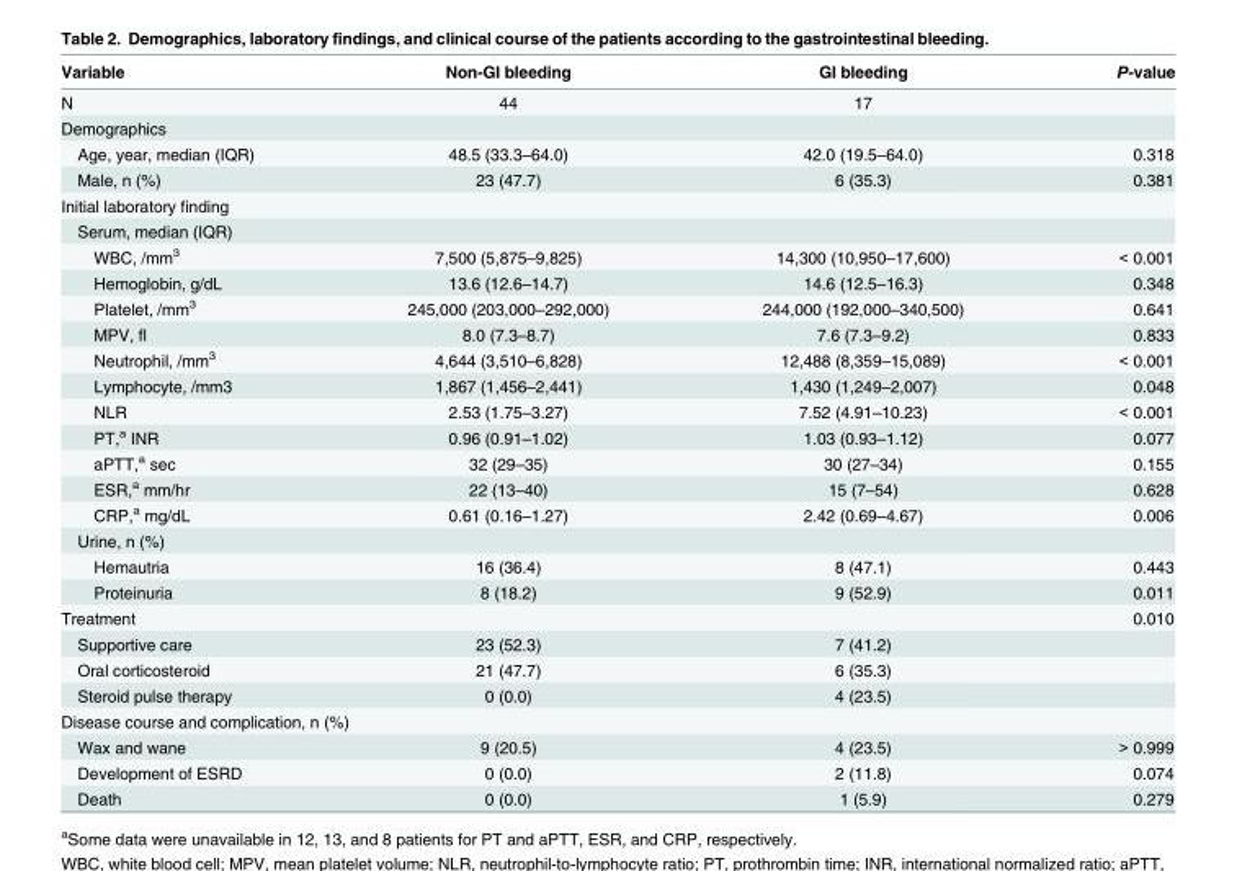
<table><thead><tr><td>Variable</td><td>Non-GI bleeding</td><td>GI bleeding</td><td>P-value</td></tr></thead><tbody><tr><td>N</td><td>44</td><td>17</td><td></td></tr><tr><td colspan="4">Demographics</td></tr><tr><td>Age, year, median (IQR)</td><td>48.5 (33.3–64.0)</td><td>42.0 (19.5–64.0)</td><td>0.318</td></tr><tr><td>Male, n (%)</td><td>23 (47.7)</td><td>6 (35.3)</td><td>0.381</td></tr><tr><td colspan="4">Initial laboratory finding</td></tr><tr><td colspan="4">Serum, median (IQR)</td></tr><tr><td>WBC, /mm<sup>3</sup></td><td>7,500 (5,875–9,825)</td><td>14,300 (10,950–17,600)</td><td>&lt; 0.001</td></tr><tr><td>Hemoglobin, g/dL</td><td>13.6 (12.6–14.7)</td><td>14.6 (12.5–16.3)</td><td>0.348</td></tr><tr><td>Platelet, /mm<sup>3</sup></td><td>245,000 (203,000–292,000)</td><td>244,000 (192,000–340,500)</td><td>0.641</td></tr><tr><td>MPV, fl</td><td>8.0 (7.3–8.7)</td><td>7.6 (7.3–9.2)</td><td>0.833</td></tr><tr><td>Neutrophil, /mm<sup>3</sup></td><td>4,644 (3,510–6,828)</td><td>12,488 (8,359–15,089)</td><td>&lt; 0.001</td></tr><tr><td>Lymphocyte, /mm3</td><td>1,867 (1,456–2,441)</td><td>1,430 (1,249–2,007)</td><td>0.048</td></tr><tr><td>NLR</td><td>2.53 (1.75–3.27)</td><td>7.52 (4.91–10.23)</td><td>&lt; 0.001</td></tr><tr><td>PT,<sup>a</sup> INR</td><td>0.96 (0.91–1.02)</td><td>1.03 (0.93–1.12)</td><td>0.077</td></tr><tr><td>aPTT,<sup>a</sup> sec</td><td>32 (29–35)</td><td>30 (27–34)</td><td>0.155</td></tr><tr><td>ESR,<sup>a</sup> mm/hr</td><td>22 (13–40)</td><td>15 (7–54)</td><td>0.628</td></tr><tr><td>CRP,<sup>a</sup> mg/dL</td><td>0.61 (0.16–1.27)</td><td>2.42 (0.69–4.67)</td><td>0.006</td></tr><tr><td colspan="4">Urine, n (%)</td></tr><tr><td>Hemautria</td><td>16 (36.4)</td><td>8 (47.1)</td><td>0.443</td></tr><tr><td>Proteinuria</td><td>8 (18.2)</td><td>9 (52.9)</td><td>0.011</td></tr><tr><td>Treatment</td><td></td><td></td><td>0.010</td></tr><tr><td>Supportive care</td><td>23 (52.3)</td><td>7 (41.2)</td><td></td></tr><tr><td>Oral corticosteroid</td><td>21 (47.7)</td><td>6 (35.3)</td><td></td></tr><tr><td>Steroid pulse therapy</td><td>0 (0.0)</td><td>4 (23.5)</td><td></td></tr><tr><td colspan="4">Disease course and complication, n (%)</td></tr><tr><td>Wax and wane</td><td>9 (20.5)</td><td>4 (23.5)</td><td>&gt; 0.999</td></tr><tr><td>Development of ESRD</td><td>0 (0.0)</td><td>2 (11.8)</td><td>0.074</td></tr><tr><td>Death</td><td>0 (0.0)</td><td>1 (5.9)</td><td>0.279</td></tr></tbody></table>